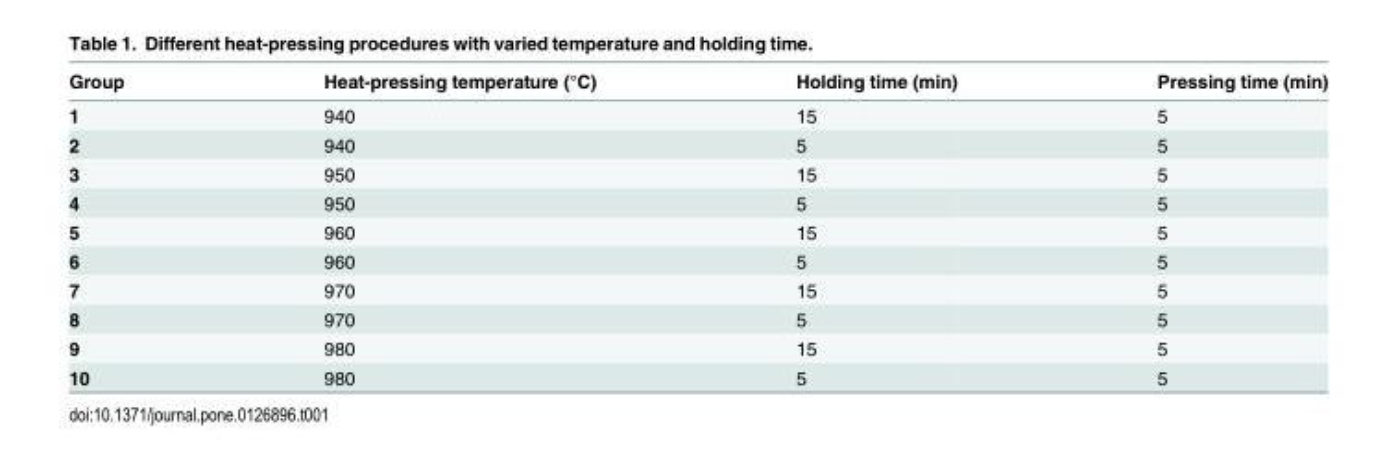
<table><thead><tr><td>Group</td><td>Heat-pressing temperature (°C)</td><td>Holding time (min)</td><td>Pressing time (min)</td></tr></thead><tbody><tr><td>1</td><td>940</td><td>15</td><td>5</td></tr><tr><td>2</td><td>940</td><td>5</td><td>5</td></tr><tr><td>3</td><td>950</td><td>15</td><td>5</td></tr><tr><td>4</td><td>950</td><td>5</td><td>5</td></tr><tr><td>5</td><td>960</td><td>15</td><td>5</td></tr><tr><td>6</td><td>960</td><td>5</td><td>5</td></tr><tr><td>7</td><td>970</td><td>15</td><td>5</td></tr><tr><td>8</td><td>970</td><td>5</td><td>5</td></tr><tr><td>9</td><td>980</td><td>15</td><td>5</td></tr><tr><td>10</td><td>980</td><td>5</td><td>5</td></tr></tbody></table>